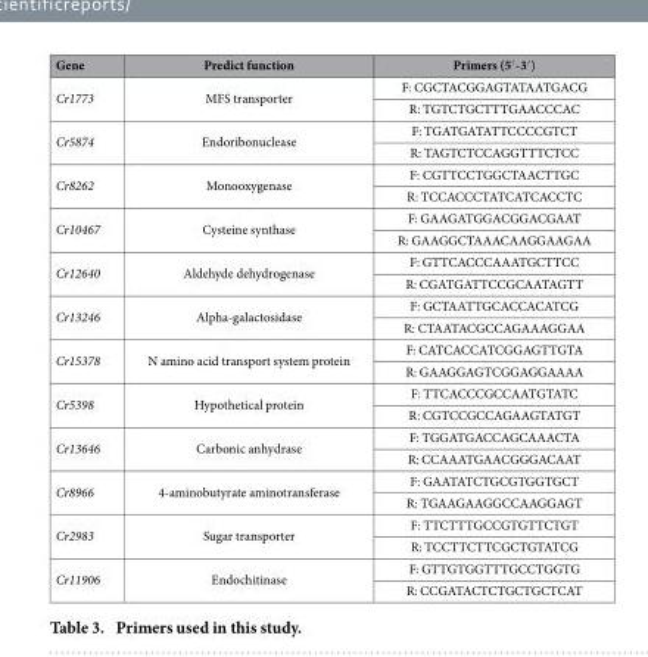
<table><thead><tr><td>Gene</td><td>Predict function</td><td>Primers (5′ -3′ )</td></tr></thead><tbody><tr><td rowspan="2">Cr1773</td><td rowspan="2">MFS transporter</td><td>F: CGCTACGGAGTATAATGACG</td></tr><tr><td>R: TGTCTGCTTTGAACCCAC</td></tr><tr><td rowspan="2">Cr5874</td><td rowspan="2">Endoribonuclease</td><td>F: TGATGATATTCCCCGTCT</td></tr><tr><td>R: TAGTCTCCAGGTTTCTCC</td></tr><tr><td rowspan="2">Cr8262</td><td rowspan="2">Monooxygenase</td><td>F: CGTTCCTGGCTAACTTGC</td></tr><tr><td>R: TCCACCCTATCATCACCTC</td></tr><tr><td rowspan="2">Cr10467</td><td rowspan="2">Cysteine synthase</td><td>F: GAAGATGGACGGACGAAT</td></tr><tr><td>R: GAAGGCTAAACAAGGAAGAA</td></tr><tr><td rowspan="2">Cr12640</td><td rowspan="2">Aldehyde dehydrogenase</td><td>F: GTTCACCCAAATGCTTCC</td></tr><tr><td>R: CGATGATTCCGCAATAGTT</td></tr><tr><td rowspan="2">Cr13246</td><td rowspan="2">Alpha-galactosidase</td><td>F: GCTAATTGCACCACATCG</td></tr><tr><td>R: CTAATACGCCAGAAAGGAA</td></tr><tr><td rowspan="2">Cr15378</td><td rowspan="2">N amino acid transport system protein</td><td>F: CATCACCATCGGAGTTGTA</td></tr><tr><td>R: GAAGGAGTCGGAGGAAAA</td></tr><tr><td rowspan="2">Cr5398</td><td rowspan="2">Hypothetical protein</td><td>F: TTCACCCGCCAATGTATC</td></tr><tr><td>R: CGTCCGCCAGAAGTATGT</td></tr><tr><td rowspan="2">Cr13646</td><td rowspan="2">Carbonic anhydrase</td><td>F: TGGATGACCAGCAAACTA</td></tr><tr><td>R: CCAAATGAACGGGACAAT</td></tr><tr><td rowspan="2">Cr8966</td><td rowspan="2">4-aminobutyrate aminotransferase</td><td>F: GAATATCTGCGTGGTGCT</td></tr><tr><td>R: TGAAGAAGGCCAAGGAGT</td></tr><tr><td rowspan="2">Cr2983</td><td rowspan="2">Sugar transporter</td><td>F: TTCTTTGCCGTGTTCTGT</td></tr><tr><td>R: TCCTTCTTCGCTGTATCG</td></tr><tr><td rowspan="2">Cr11906</td><td rowspan="2">Endochitinase</td><td>F: GTTGTGGTTTGCCTGGTG</td></tr><tr><td>R: CCGATACTCTGCTGCTCAT</td></tr></tbody></table>